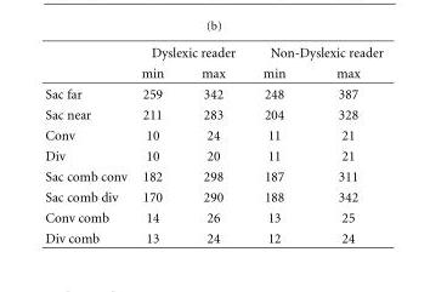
<table><thead><tr><td rowspan="2"></td><td colspan="2">Dyslexic reader</td><td colspan="2">Non-Dyslexic reader</td></tr><tr><td>min</td><td>max</td><td>min</td><td>max</td></tr></thead><tbody><tr><td>Sac far</td><td>259</td><td>342</td><td>248</td><td>387</td></tr><tr><td>Sac near</td><td>211</td><td>283</td><td>204</td><td>328</td></tr><tr><td>Conv</td><td>10</td><td>24</td><td>11</td><td>21</td></tr><tr><td>Div</td><td>10</td><td>20</td><td>11</td><td>21</td></tr><tr><td>Sac comb conv</td><td>182</td><td>298</td><td>187</td><td>311</td></tr><tr><td>Sac comb div</td><td>170</td><td>290</td><td>188</td><td>342</td></tr><tr><td>Conv comb</td><td>14</td><td>26</td><td>13</td><td>25</td></tr><tr><td>Div comb</td><td>13</td><td>24</td><td>12</td><td>24</td></tr></tbody></table>